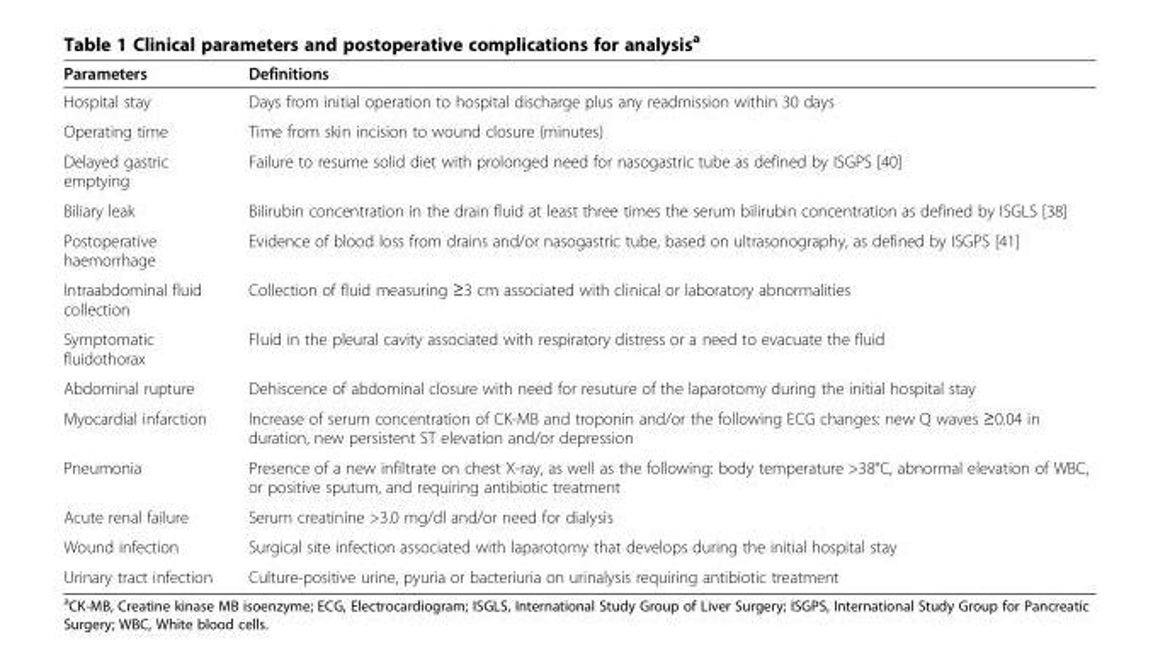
<table><thead><tr><td>Parameters</td><td>Definitions</td></tr></thead><tbody><tr><td>Hospital stay</td><td>Days from initial operation to hospital discharge plus any readmission within 30 days</td></tr><tr><td>Operating time</td><td>Time from skin incision to wound closure (minutes)</td></tr><tr><td>Delayed gastric emptying</td><td>Failure to resume solid diet with prolonged need for nasogastric tube as defined by ISGPS [40]</td></tr><tr><td>Biliary leak</td><td>Bilirubin concentration in the drain fluid at least three times the serum bilirubin concentration as defined by ISGLS [38]</td></tr><tr><td>Postoperative haemorrhage</td><td>Evidence of blood loss from drains and/or nasogastric tube, based on ultrasonography, as defined by ISGPS [41]</td></tr><tr><td>Intraabdominal fluid collection</td><td>Collection of fluid measuring ≥3 cm associated with clinical or laboratory abnormalities</td></tr><tr><td>Symptomatic fluidothorax</td><td>Fluid in the pleural cavity associated with respiratory distress or a need to evacuate the fluid</td></tr><tr><td>Abdominal rupture</td><td>Dehiscence of abdominal closure with need for resuture of the laparotomy during the initial hospital stay</td></tr><tr><td>Myocardial infarction</td><td>Increase of serum concentration of CK-MB and troponin and/or the following ECG changes: new Q waves ≥0.04 in duration, new persistent ST elevation and/or depression</td></tr><tr><td>Pneumonia</td><td>Presence of a new infiltrate on chest X-ray, as well as the following: body temperature &gt;38°C, abnormal elevation of WBC, or positive sputum, and requiring antibiotic treatment</td></tr><tr><td>Acute renal failure</td><td>Serum creatinine &gt;3.0 mg/dl and/or need for dialysis</td></tr><tr><td>Wound infection</td><td>Surgical site infection associated with laparotomy that develops during the initial hospital stay</td></tr><tr><td>Urinary tract infection</td><td>Culture-positive urine, pyuria or bacteriuria on urinalysis requiring antibiotic treatment</td></tr></tbody></table>